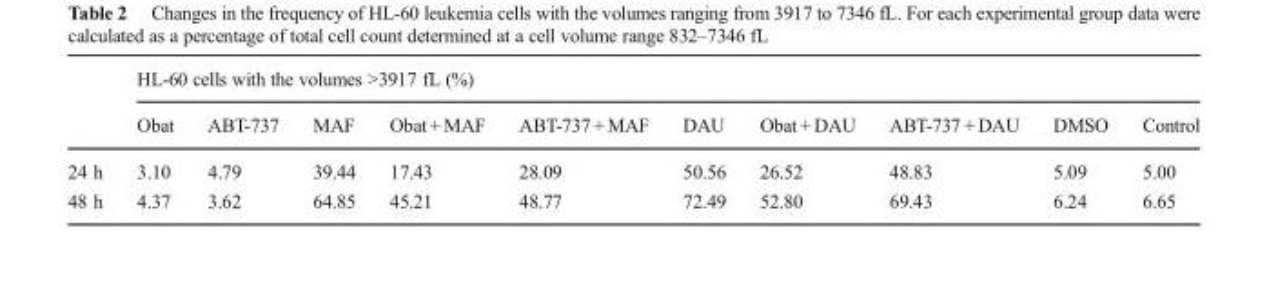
<table><thead><tr><td rowspan="2"></td><td colspan="10">HL-60 cells with the volumes &gt;3917 fL (%)</td></tr><tr><td>Obat</td><td>ABT-737</td><td>MAF</td><td>Obat + MAF</td><td>ABT-737 + MAF</td><td>DAU</td><td>Obat + DAU</td><td>ABT-737 + DAU</td><td>DMSO</td><td>Control</td></tr></thead><tbody><tr><td>24 h</td><td>3.10</td><td>4.79</td><td>39.44</td><td>17.43</td><td>28.09</td><td>50.56</td><td>26.52</td><td>48.83</td><td>5.09</td><td>5.00</td></tr><tr><td>48 h</td><td>4.37</td><td>3.62</td><td>64.85</td><td>45.21</td><td>48.77</td><td>72.49</td><td>52.80</td><td>69.43</td><td>6.24</td><td>6.65</td></tr></tbody></table>